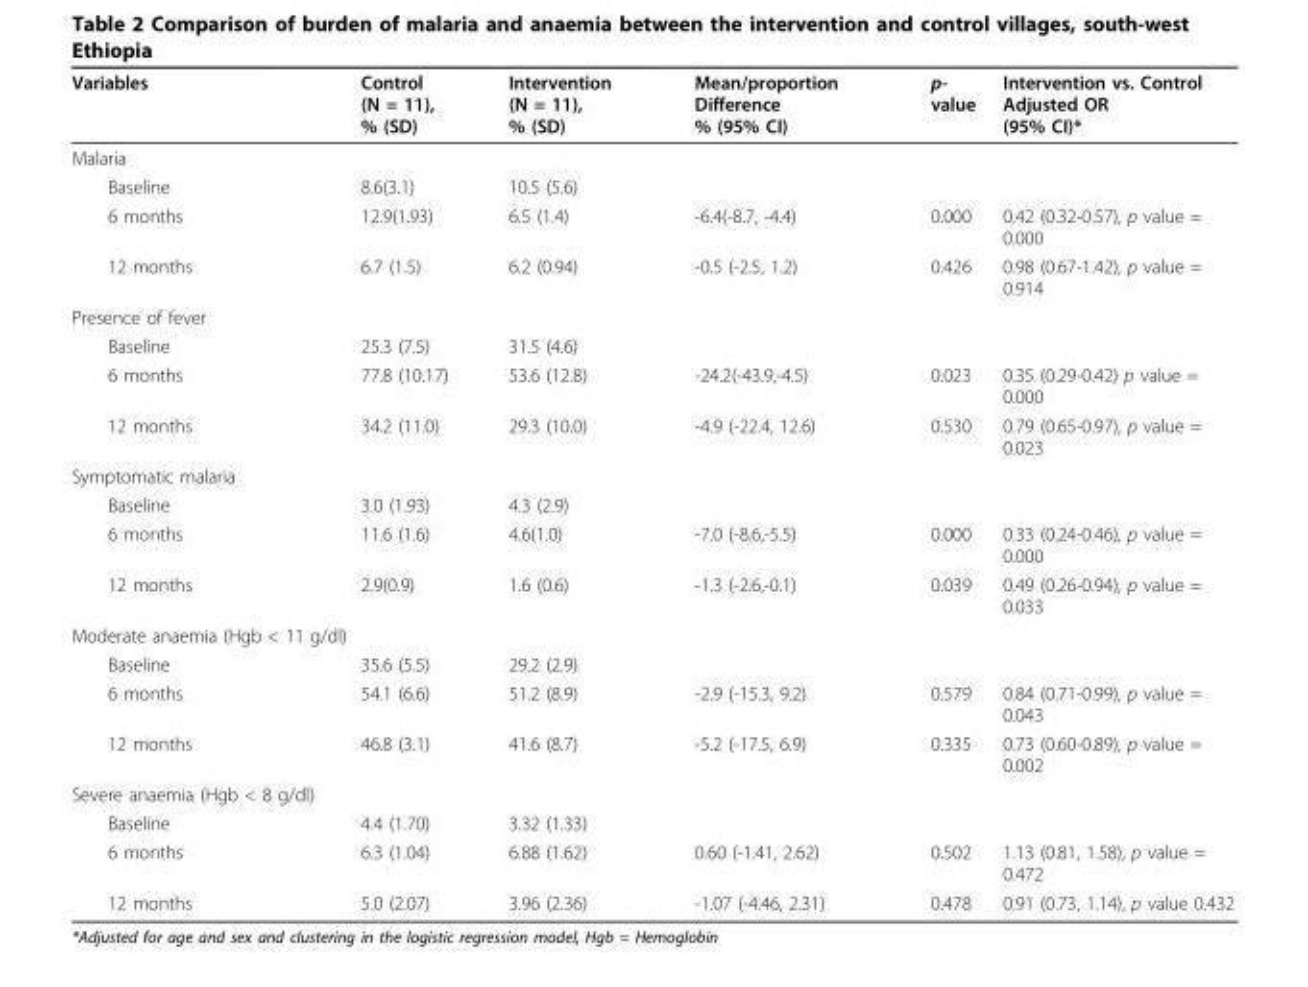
<table><thead><tr><td>Variables</td><td>Control (N = 11), % (SD)</td><td>Intervention (N = 11), % (SD)</td><td>Mean/proportion Difference % (95% CI)</td><td>p- value</td><td>Intervention vs. Control Adjusted OR (95% CI)*</td></tr></thead><tbody><tr><td colspan="6">Malaria</td></tr><tr><td>Baseline</td><td>8.6(3.1)</td><td>10.5 (5.6)</td><td></td><td></td><td></td></tr><tr><td>6 months</td><td>12.9(1.93)</td><td>6.5 (1.4)</td><td>-6.4(-8.7, -4.4)</td><td>0.000</td><td>0.42 (0.32-0.57), p value = 0.000</td></tr><tr><td>12 months</td><td>6.7 (1.5)</td><td>6.2 (0.94)</td><td>-0.5 (-2.5, 1.2)</td><td>0.426</td><td>0.98 (0.67-1.42), p value = 0.914</td></tr><tr><td colspan="6">Presence of fever</td></tr><tr><td>Baseline</td><td>25.3 (7.5)</td><td>31.5 (4.6)</td><td></td><td></td><td></td></tr><tr><td>6 months</td><td>77.8 (10.17)</td><td>53.6 (12.8)</td><td>-24.2(-43.9,-4.5)</td><td>0.023</td><td>0.35 (0.29-0.42) p value = 0.000</td></tr><tr><td>12 months</td><td>34.2 (11.0)</td><td>29.3 (10.0)</td><td>-4.9 (-22.4, 12.6)</td><td>0.530</td><td>0.79 (0.65-0.97), p value = 0.023</td></tr><tr><td colspan="6">Symptomatic malaria</td></tr><tr><td>Baseline</td><td>3.0 (1.93)</td><td>4.3 (2.9)</td><td></td><td></td><td></td></tr><tr><td>6 months</td><td>11.6 (1.6)</td><td>4.6(1.0)</td><td>-7.0 (-8.6,-5.5)</td><td>0.000</td><td>0.33 (0.24-0.46), p value = 0.000</td></tr><tr><td>12 months</td><td>2.9(0.9)</td><td>1.6 (0.6)</td><td>-1.3 (-2.6,-0.1)</td><td>0.039</td><td>0.49 (0.26-0.94), p value = 0.033</td></tr><tr><td colspan="6">Moderate anaemia (Hgb &lt; 11 g/dl)</td></tr><tr><td>Baseline</td><td>35.6 (5.5)</td><td>29.2 (2.9)</td><td></td><td></td><td></td></tr><tr><td>6 months</td><td>54.1 (6.6)</td><td>51.2 (8.9)</td><td>-2.9 (-15.3, 9.2)</td><td>0.579</td><td>0.84 (0.71-0.99), p value = 0.043</td></tr><tr><td>12 months</td><td>46.8 (3.1)</td><td>41.6 (8.7)</td><td>-5.2 (-17.5, 6.9)</td><td>0.335</td><td>0.73 (0.60-0.89), p value = 0.002</td></tr><tr><td colspan="6">Severe anaemia (Hgb &lt; 8 g/dl)</td></tr><tr><td>Baseline</td><td>4.4 (1.70)</td><td>3.32 (1.33)</td><td></td><td></td><td></td></tr><tr><td>6 months</td><td>6.3 (1.04)</td><td>6.88 (1.62)</td><td>0.60 (-1.41, 2.62)</td><td>0.502</td><td>1.13 (0.81, 1.58), p value = 0.472</td></tr><tr><td>12 months</td><td>5.0 (2.07)</td><td>3.96 (2.36)</td><td>-1.07 (-4.46, 2.31)</td><td>0.478</td><td>0.91 (0.73, 1.14), p value 0.432</td></tr></tbody></table>